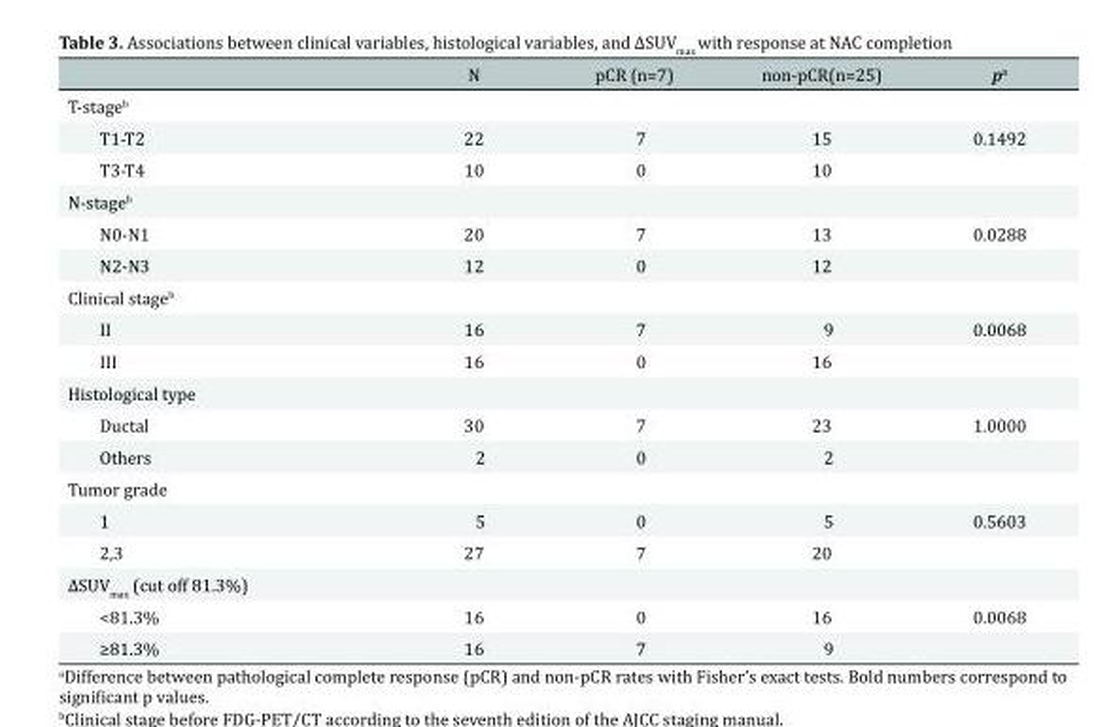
<table><thead><tr><td></td><td>N</td><td>pCR (n=7)</td><td>non-pCR(n=25)</td><td>p<sup>a</sup></td></tr></thead><tbody><tr><td colspan="5">T-stage<sup>b</sup></td></tr><tr><td>T1-T2</td><td>22</td><td>7</td><td>15</td><td>0.1492</td></tr><tr><td>T3-T4</td><td>10</td><td>0</td><td>10</td><td></td></tr><tr><td colspan="5">N-stage<sup>b</sup></td></tr><tr><td>N0-N1</td><td>20</td><td>7</td><td>13</td><td>0.0288</td></tr><tr><td>N2-N3</td><td>12</td><td>0</td><td>12</td><td></td></tr><tr><td colspan="5">Clinical stage<sup>b</sup></td></tr><tr><td>II</td><td>16</td><td>7</td><td>9</td><td>0.0068</td></tr><tr><td>III</td><td>16</td><td>0</td><td>16</td><td></td></tr><tr><td colspan="5">Histological type</td></tr><tr><td>Ductal</td><td>30</td><td>7</td><td>23</td><td>1.0000</td></tr><tr><td>Others</td><td>2</td><td>0</td><td>2</td><td></td></tr><tr><td colspan="5">Tumor grade</td></tr><tr><td>1</td><td>5</td><td>0</td><td>5</td><td>0.5603</td></tr><tr><td>2,3</td><td>27</td><td>7</td><td>20</td><td></td></tr><tr><td colspan="5">ΔSUV<sub>max</sub> (cut off 81.3%)</td></tr><tr><td>&lt;81.3%</td><td>16</td><td>0</td><td>16</td><td>0.0068</td></tr><tr><td>≥81.3%</td><td>16</td><td>7</td><td>9</td><td></td></tr></tbody></table>